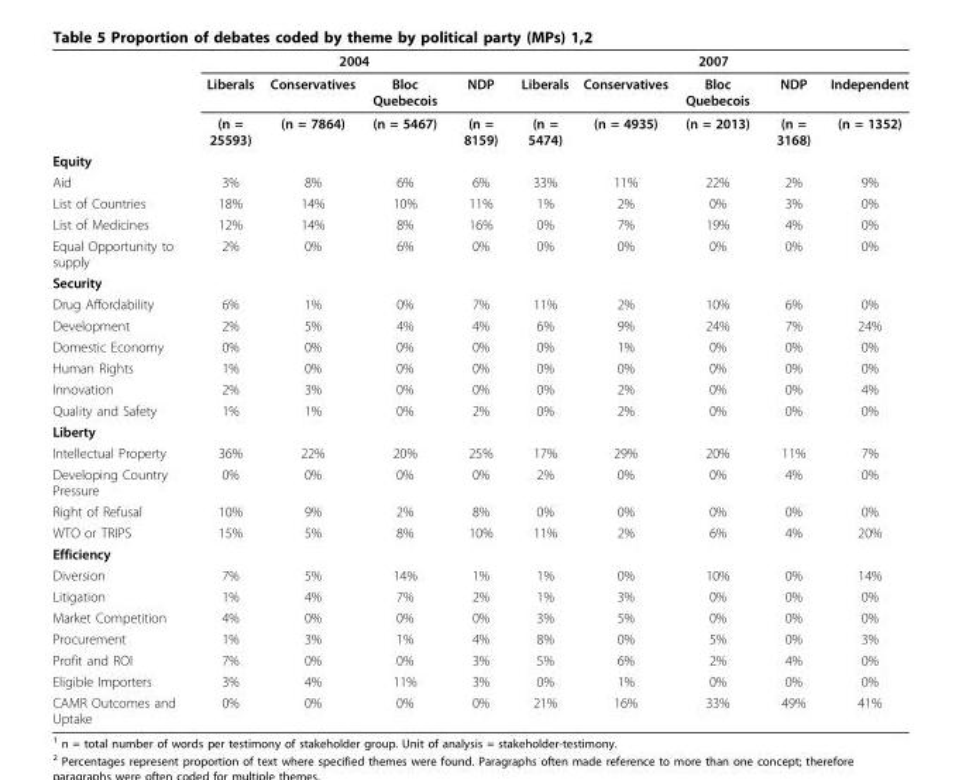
<table><thead><tr><td rowspan="2"></td><td colspan="4">2004</td><td colspan="5">2007</td></tr><tr><td>Liberals</td><td>Conservatives</td><td>Bloc Quebecois</td><td>NDP</td><td>Liberals</td><td>Conservatives</td><td>Bloc Quebecois</td><td>NDP</td><td>Independent</td></tr></thead><tbody><tr><td></td><td>(n = 25593)</td><td>(n = 7864)</td><td>(n = 5467)</td><td>(n = 8159)</td><td>(n = 5474)</td><td>(n = 4935)</td><td>(n = 2013)</td><td>(n = 3168)</td><td>(n = 1352)</td></tr><tr><td colspan="10">Equity</td></tr><tr><td>Aid</td><td>3%</td><td>8%</td><td>6%</td><td>6%</td><td>33%</td><td>11%</td><td>22%</td><td>2%</td><td>9%</td></tr><tr><td>List of Countries</td><td>18%</td><td>14%</td><td>10%</td><td>11%</td><td>1%</td><td>2%</td><td>0%</td><td>3%</td><td>0%</td></tr><tr><td>List of Medicines</td><td>12%</td><td>14%</td><td>8%</td><td>16%</td><td>0%</td><td>7%</td><td>19%</td><td>4%</td><td>0%</td></tr><tr><td>Equal Opportunity to supply</td><td>2%</td><td>0%</td><td>6%</td><td>0%</td><td>0%</td><td>0%</td><td>0%</td><td>0%</td><td>0%</td></tr><tr><td colspan="10">Security</td></tr><tr><td>Drug Affordability</td><td>6%</td><td>1%</td><td>0%</td><td>7%</td><td>11%</td><td>2%</td><td>10%</td><td>6%</td><td>0%</td></tr><tr><td>Development</td><td>2%</td><td>5%</td><td>4%</td><td>4%</td><td>6%</td><td>9%</td><td>24%</td><td>7%</td><td>24%</td></tr><tr><td>Domestic Economy</td><td>0%</td><td>0%</td><td>0%</td><td>0%</td><td>0%</td><td>1%</td><td>0%</td><td>0%</td><td>0%</td></tr><tr><td>Human Rights</td><td>1%</td><td>0%</td><td>0%</td><td>0%</td><td>0%</td><td>0%</td><td>0%</td><td>0%</td><td>0%</td></tr><tr><td>Innovation</td><td>2%</td><td>3%</td><td>0%</td><td>0%</td><td>0%</td><td>2%</td><td>0%</td><td>0%</td><td>4%</td></tr><tr><td>Quality and Safety</td><td>1%</td><td>1%</td><td>0%</td><td>2%</td><td>0%</td><td>2%</td><td>0%</td><td>0%</td><td>0%</td></tr><tr><td colspan="10">Liberty</td></tr><tr><td>Intellectual Property</td><td>36%</td><td>22%</td><td>20%</td><td>25%</td><td>17%</td><td>29%</td><td>20%</td><td>11%</td><td>7%</td></tr><tr><td>Developing Country Pressure</td><td>0%</td><td>0%</td><td>0%</td><td>0%</td><td>2%</td><td>0%</td><td>0%</td><td>4%</td><td>0%</td></tr><tr><td>Right of Refusal</td><td>10%</td><td>9%</td><td>2%</td><td>8%</td><td>0%</td><td>0%</td><td>0%</td><td>0%</td><td>0%</td></tr><tr><td>WTO or TRIPS</td><td>15%</td><td>5%</td><td>8%</td><td>10%</td><td>11%</td><td>2%</td><td>6%</td><td>4%</td><td>20%</td></tr><tr><td colspan="10">Efficiency</td></tr><tr><td>Diversion</td><td>7%</td><td>5%</td><td>14%</td><td>1%</td><td>1%</td><td>0%</td><td>10%</td><td>0%</td><td>14%</td></tr><tr><td>Litigation</td><td>1%</td><td>4%</td><td>7%</td><td>2%</td><td>1%</td><td>3%</td><td>0%</td><td>0%</td><td>0%</td></tr><tr><td>Market Competition</td><td>4%</td><td>0%</td><td>0%</td><td>0%</td><td>3%</td><td>5%</td><td>0%</td><td>0%</td><td>0%</td></tr><tr><td>Procurement</td><td>1%</td><td>3%</td><td>1%</td><td>4%</td><td>8%</td><td>0%</td><td>5%</td><td>0%</td><td>3%</td></tr><tr><td>Profit and ROI</td><td>7%</td><td>0%</td><td>0%</td><td>3%</td><td>5%</td><td>6%</td><td>2%</td><td>4%</td><td>0%</td></tr><tr><td>Eligible Importers</td><td>3%</td><td>4%</td><td>11%</td><td>3%</td><td>0%</td><td>1%</td><td>0%</td><td>0%</td><td>0%</td></tr><tr><td>CAMR Outcomes and Uptake</td><td>0%</td><td>0%</td><td>0%</td><td>0%</td><td>21%</td><td>16%</td><td>33%</td><td>49%</td><td>41%</td></tr></tbody></table>